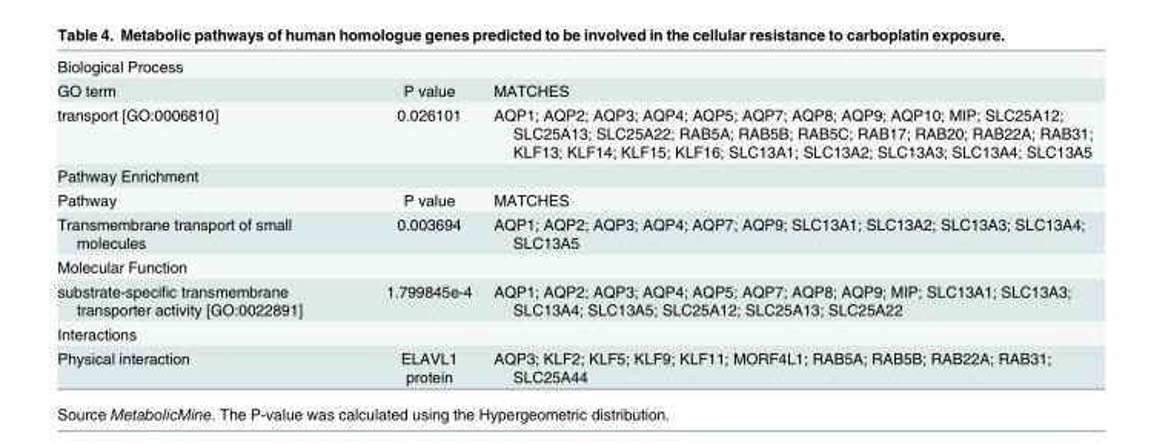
<table><tbody><tr><td colspan="3">Biological Process</td></tr><tr><td>GO term</td><td>P value</td><td>MATCHES</td></tr><tr><td>transport [GO:0006810]</td><td>0.026101</td><td>AQP1; AQP2; AQP3; AQP4; AQP5; AQP7; AQP8; AQP9; AQP10; MIP; SLC25A12; SLC25A13; SLC25A22; RAB5A; RAB5B; RAB5C; RAB17; RAB20; RAB22A; RAB31; KLF13; KLF14; KLF15; KLF16; SLC13A1; SLC13A2; SLC13A3; SLC13A4; SLC13A5</td></tr><tr><td colspan="3">Pathway Enrichment</td></tr><tr><td>Pathway</td><td>P value</td><td>MATCHES</td></tr><tr><td>Transmembrane transport of small molecules</td><td>0.003694</td><td>AQP1; AQP2; AQP3; AQP4; AQP7; AQP9; SLC13A1; SLC13A2; SLC13A3; SLC13A4; SLC13A5</td></tr><tr><td colspan="3">Molecular Function</td></tr><tr><td>substrate-specific transmembrane transporter activity [GO:0022891]</td><td>1.799845e-4</td><td>AQP1; AQP2; AQP3; AQP4; AQP5; AQP7; AQP8; AQP9; MIP; SLC13A1; SLC13A3; SLC13A4; SLC13A5; SLC25A12; SLC25A13; SLC25A22</td></tr><tr><td colspan="3">Interactions</td></tr><tr><td>Physical interaction</td><td>ELAVL1 protein</td><td>AQP3; KLF2; KLF5; KLF9; KLF11; MORF4L1; RAB5A; RAB5B; RAB22A; RAB31; SLC25A44</td></tr></tbody></table>